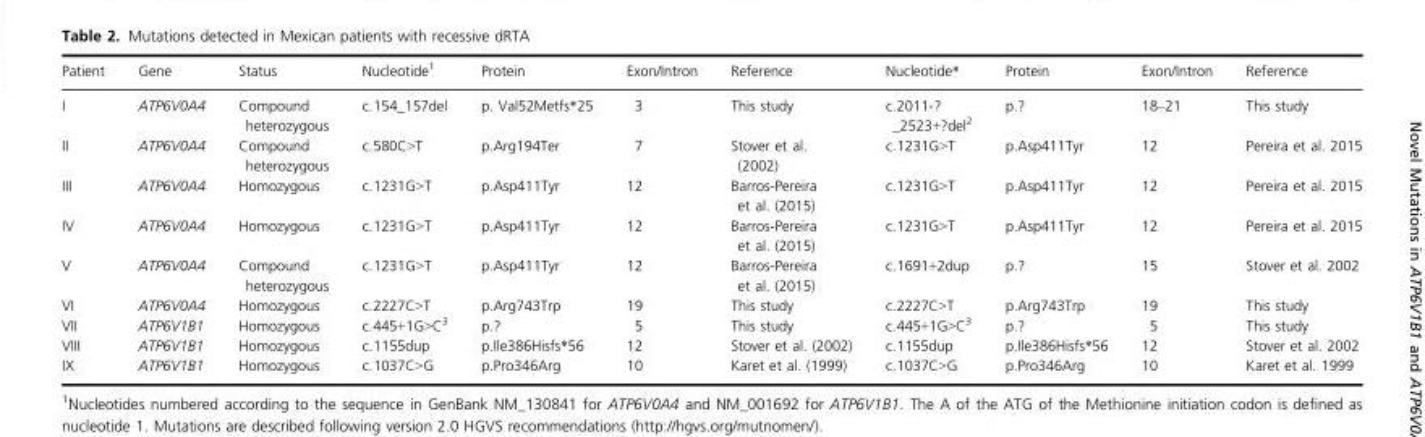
<table><thead><tr><td>Patient</td><td>Gene</td><td>Status</td><td>Nucleotide1</td><td>Protein</td><td>Exon/Intron</td><td>Reference</td><td>Nucleotide*</td><td>Protein</td><td>Exon/Intron</td><td>Reference</td></tr></thead><tbody><tr><td>I</td><td>ATP6V0A4</td><td>Compound heterozygous</td><td>c.154_157del</td><td>p. Val52Metfs*25</td><td>3</td><td>This study</td><td>c.2011-? _2523+?del2</td><td>p.?</td><td>18–21</td><td>This study</td></tr><tr><td>II</td><td>ATP6V0A4</td><td>Compound heterozygous</td><td>c.580C&gt;T</td><td>p.Arg194Ter</td><td>7</td><td>Stover et al. (2002)</td><td>c.1231G&gt;T</td><td>p.Asp411Tyr</td><td>12</td><td>Pereira et al. 2015</td></tr><tr><td>III</td><td>ATP6V0A4</td><td>Homozygous</td><td>c.1231G&gt;T</td><td>p.Asp411Tyr</td><td>12</td><td>Barros-Pereira et al. (2015)</td><td>c.1231G&gt;T</td><td>p.Asp411Tyr</td><td>12</td><td>Pereira et al. 2015</td></tr><tr><td>IV</td><td>ATP6V0A4</td><td>Homozygous</td><td>c.1231G&gt;T</td><td>p.Asp411Tyr</td><td>12</td><td>Barros-Pereira et al. (2015)</td><td>c.1231G&gt;T</td><td>p.Asp411Tyr</td><td>12</td><td>Pereira et al. 2015</td></tr><tr><td>V</td><td>ATP6V0A4</td><td>Compound heterozygous</td><td>c.1231G&gt;T</td><td>p.Asp411Tyr</td><td>12</td><td>Barros-Pereira et al. (2015)</td><td>c.1691+2dup</td><td>p.?</td><td>15</td><td>Stover et al. 2002</td></tr><tr><td>VI</td><td>ATP6V0A4</td><td>Homozygous</td><td>c.2227C&gt;T</td><td>p.Arg743Trp</td><td>19</td><td>This study</td><td>c.2227C&gt;T</td><td>p.Arg743Trp</td><td>19</td><td>This study</td></tr><tr><td>VII</td><td>ATP6V1B1</td><td>Homozygous</td><td>c.445+1G&gt;C3</td><td>p.?</td><td>5</td><td>This study</td><td>c.445+1G&gt;C3</td><td>p.?</td><td>5</td><td>This study</td></tr><tr><td>VIII</td><td>ATP6V1B1</td><td>Homozygous</td><td>c.1155dup</td><td>p.Ile386Hisfs*56</td><td>12</td><td>Stover et al. (2002)</td><td>c.1155dup</td><td>p.Ile386Hisfs*56</td><td>12</td><td>Stover et al. 2002</td></tr><tr><td>IX</td><td>ATP6V1B1</td><td>Homozygous</td><td>c.1037C&gt;G</td><td>p.Pro346Arg</td><td>10</td><td>Karet et al. (1999)</td><td>c.1037C&gt;G</td><td>p.Pro346Arg</td><td>10</td><td>Karet et al. 1999</td></tr></tbody></table>